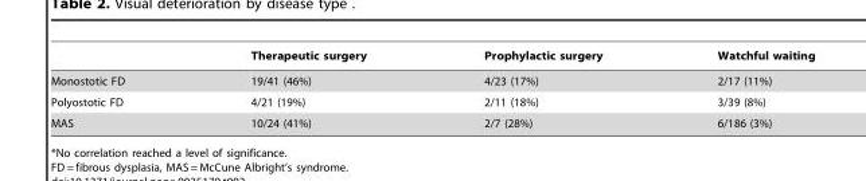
<table><thead><tr><td></td><td>Therapeutic surgery</td><td>Prophylactic surgery</td><td>Watchful waiting</td></tr></thead><tbody><tr><td>Monostotic FD</td><td>19/41 (46%)</td><td>4/23 (17%)</td><td>2/17 (11%)</td></tr><tr><td>Polyostotic FD</td><td>4/21 (19%)</td><td>2/11 (18%)</td><td>3/39 (8%)</td></tr><tr><td>MAS</td><td>10/24 (41%)</td><td>2/7 (28%)</td><td>6/186 (3%)</td></tr></tbody></table>